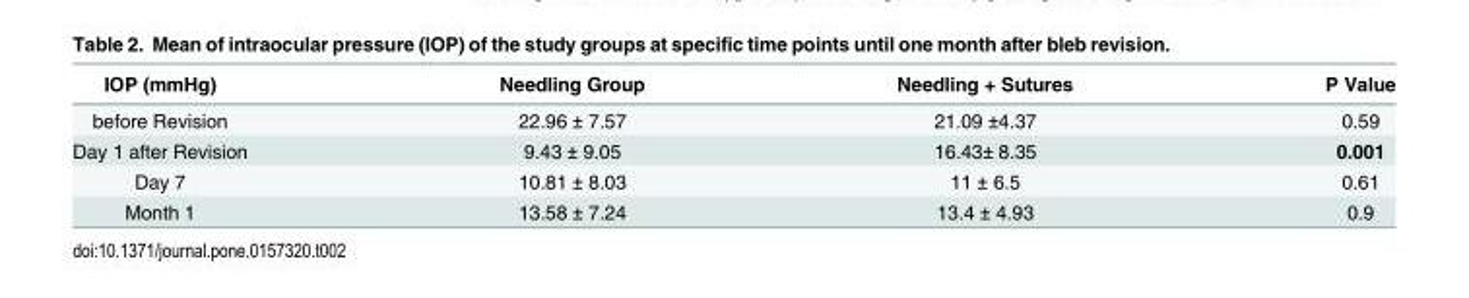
<table><thead><tr><td>IOP (mmHg)</td><td>Needling Group</td><td>Needling + Sutures</td><td>P Value</td></tr></thead><tbody><tr><td>before Revision</td><td>22.96 ± 7.57</td><td>21.09 ±4.37</td><td>0.59</td></tr><tr><td>Day 1 after Revision</td><td>9.43 ± 9.05</td><td>16.43± 8.35</td><td>0.001</td></tr><tr><td>Day 7</td><td>10.81 ± 8.03</td><td>11 ± 6.5</td><td>0.61</td></tr><tr><td>Month 1</td><td>13.58 ± 7.24</td><td>13.4 ± 4.93</td><td>0.9</td></tr></tbody></table>